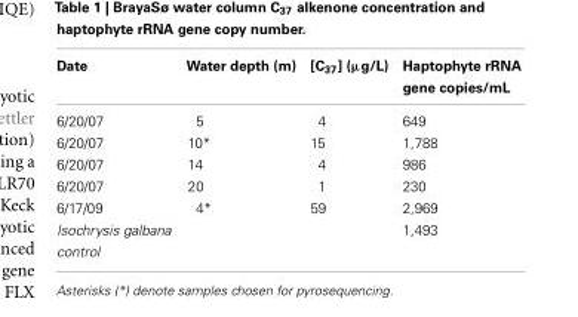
<table><thead><tr><td>Date</td><td>Water depth (m)</td><td>[C<sub>37</sub>] (µg/L)</td><td>Haptophyte rRNA gene copies/mL</td></tr></thead><tbody><tr><td>6/20/07</td><td>5</td><td>4</td><td>649</td></tr><tr><td>6/20/07</td><td>10*</td><td>15</td><td>1,788</td></tr><tr><td>6/20/07</td><td>14</td><td>4</td><td>986</td></tr><tr><td>6/20/07</td><td>20</td><td>1</td><td>230</td></tr><tr><td>6/17/09</td><td>4*</td><td>59</td><td>2,969</td></tr><tr><td>Isochrysis galbana control</td><td></td><td></td><td>1,493</td></tr></tbody></table>